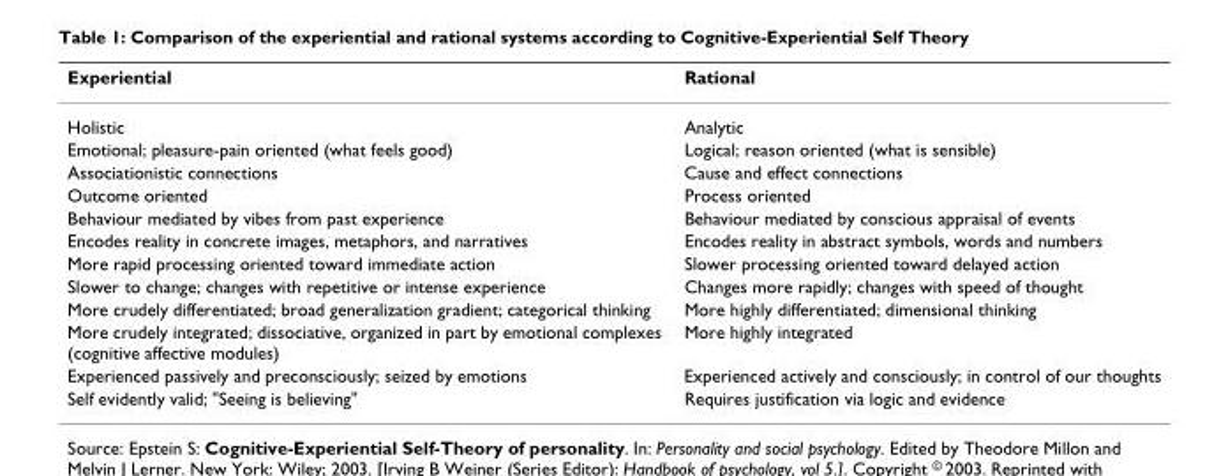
<table><thead><tr><td>Experiential</td><td>Rational</td></tr></thead><tbody><tr><td>Holistic</td><td>Analytic</td></tr><tr><td>Emotional; pleasure-pain oriented (what feels good)</td><td>Logical; reason oriented (what is sensible)</td></tr><tr><td>Associationistic connections</td><td>Cause and effect connections</td></tr><tr><td>Outcome oriented</td><td>Process oriented</td></tr><tr><td>Behaviour mediated by vibes from past experience</td><td>Behaviour mediated by conscious appraisal of events</td></tr><tr><td>Encodes reality in concrete images, metaphors, and narratives</td><td>Encodes reality in abstract symbols, words and numbers</td></tr><tr><td>More rapid processing oriented toward immediate action</td><td>Slower processing oriented toward delayed action</td></tr><tr><td>Slower to change; changes with repetitive or intense experience</td><td>Changes more rapidly; changes with speed of thought</td></tr><tr><td>More crudely differentiated; broad generalization gradient; categorical thinking</td><td>More highly differentiated; dimensional thinking</td></tr><tr><td>More crudely integrated; dissociative, organized in part by emotional complexes (cognitive affective modules)</td><td>More highly integrated</td></tr><tr><td>Experienced passively and preconsciously; seized by emotions</td><td>Experienced actively and consciously; in control of our thoughts</td></tr><tr><td>Self evidently valid; &quot;Seeing is believing&quot;</td><td>Requires justification via logic and evidence</td></tr></tbody></table>